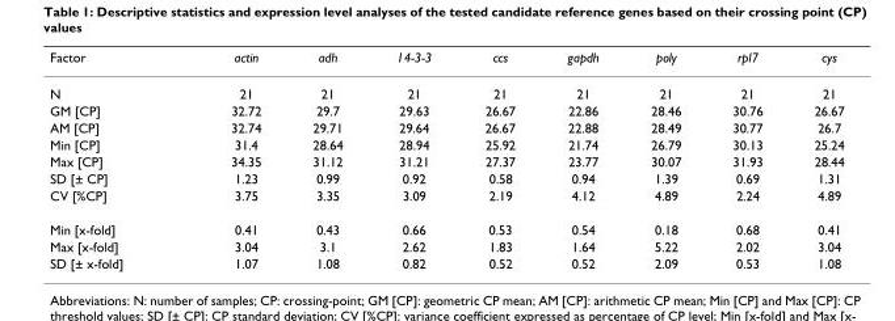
<table><thead><tr><td>Factor</td><td>actin</td><td>adh</td><td>14-3-3</td><td>ccs</td><td>gapdh</td><td>poly</td><td>rpl7</td><td>cys</td></tr></thead><tbody><tr><td>N</td><td>21</td><td>21</td><td>21</td><td>21</td><td>21</td><td>21</td><td>21</td><td>21</td></tr><tr><td>GM [CP]</td><td>32.72</td><td>29.7</td><td>29.63</td><td>26.67</td><td>22.86</td><td>28.46</td><td>30.76</td><td>26.67</td></tr><tr><td>AM [CP]</td><td>32.74</td><td>29.71</td><td>29.64</td><td>26.67</td><td>22.88</td><td>28.49</td><td>30.77</td><td>26.7</td></tr><tr><td>Min [CP]</td><td>31.4</td><td>28.64</td><td>28.94</td><td>25.92</td><td>21.74</td><td>26.79</td><td>30.13</td><td>25.24</td></tr><tr><td>Max [CP]</td><td>34.35</td><td>31.12</td><td>31.21</td><td>27.37</td><td>23.77</td><td>30.07</td><td>31.93</td><td>28.44</td></tr><tr><td>SD [± CP]</td><td>1.23</td><td>0.99</td><td>0.92</td><td>0.58</td><td>0.94</td><td>1.39</td><td>0.69</td><td>1.31</td></tr><tr><td>CV [%CP]</td><td>3.75</td><td>3.35</td><td>3.09</td><td>2.19</td><td>4.12</td><td>4.89</td><td>2.24</td><td>4.89</td></tr><tr><td>Min [x-fold]</td><td>0.41</td><td>0.43</td><td>0.66</td><td>0.53</td><td>0.54</td><td>0.18</td><td>0.68</td><td>0.41</td></tr><tr><td>Max [x-fold]</td><td>3.04</td><td>3.1</td><td>2.62</td><td>1.83</td><td>1.64</td><td>5.22</td><td>2.02</td><td>3.04</td></tr><tr><td>SD [± x-fold]</td><td>1.07</td><td>1.08</td><td>0.82</td><td>0.52</td><td>0.52</td><td>2.09</td><td>0.53</td><td>1.08</td></tr></tbody></table>